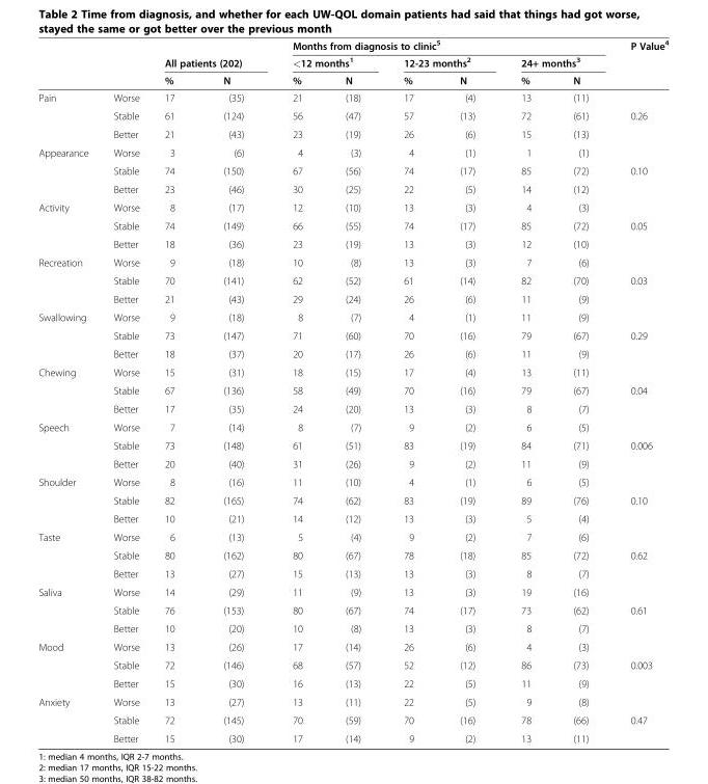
<table><thead><tr><td rowspan="3"></td><td rowspan="3"></td><td></td><td></td><td colspan="6">Months from diagnosis to clinic<sup>5</sup></td><td rowspan="3">P Value<sup>4</sup></td></tr><tr><td colspan="2">All patients (202)</td><td colspan="2">&lt;12 months<sup>1</sup></td><td colspan="2">12-23 months<sup>2</sup></td><td colspan="2">24+ months<sup>3</sup></td></tr><tr><td>%</td><td>N</td><td>%</td><td>N</td><td>%</td><td>N</td><td>%</td><td>N</td></tr></thead><tbody><tr><td rowspan="3">Pain</td><td>Worse</td><td>17</td><td>(35)</td><td>21</td><td>(18)</td><td>17</td><td>(4)</td><td>13</td><td>(11)</td><td></td></tr><tr><td>Stable</td><td>61</td><td>(124)</td><td>56</td><td>(47)</td><td>57</td><td>(13)</td><td>72</td><td>(61)</td><td>0.26</td></tr><tr><td>Better</td><td>21</td><td>(43)</td><td>23</td><td>(19)</td><td>26</td><td>(6)</td><td>15</td><td>(13)</td><td></td></tr><tr><td rowspan="3">Appearance</td><td>Worse</td><td>3</td><td>(6)</td><td>4</td><td>(3)</td><td>4</td><td>(1)</td><td>1</td><td>(1)</td><td></td></tr><tr><td>Stable</td><td>74</td><td>(150)</td><td>67</td><td>(56)</td><td>74</td><td>(17)</td><td>85</td><td>(72)</td><td>0.10</td></tr><tr><td>Better</td><td>23</td><td>(46)</td><td>30</td><td>(25)</td><td>22</td><td>(5)</td><td>14</td><td>(12)</td><td></td></tr><tr><td rowspan="3">Activity</td><td>Worse</td><td>8</td><td>(17)</td><td>12</td><td>(10)</td><td>13</td><td>(3)</td><td>4</td><td>(3)</td><td></td></tr><tr><td>Stable</td><td>74</td><td>(149)</td><td>66</td><td>(55)</td><td>74</td><td>(17)</td><td>85</td><td>(72)</td><td>0.05</td></tr><tr><td>Better</td><td>18</td><td>(36)</td><td>23</td><td>(19)</td><td>13</td><td>(3)</td><td>12</td><td>(10)</td><td></td></tr><tr><td rowspan="3">Recreation</td><td>Worse</td><td>9</td><td>(18)</td><td>10</td><td>(8)</td><td>13</td><td>(3)</td><td>7</td><td>(6)</td><td></td></tr><tr><td>Stable</td><td>70</td><td>(141)</td><td>62</td><td>(52)</td><td>61</td><td>(14)</td><td>82</td><td>(70)</td><td>0.03</td></tr><tr><td>Better</td><td>21</td><td>(43)</td><td>29</td><td>(24)</td><td>26</td><td>(6)</td><td>11</td><td>(9)</td><td></td></tr><tr><td rowspan="3">Swallowing</td><td>Worse</td><td>9</td><td>(18)</td><td>8</td><td>(7)</td><td>4</td><td>(1)</td><td>11</td><td>(9)</td><td></td></tr><tr><td>Stable</td><td>73</td><td>(147)</td><td>71</td><td>(60)</td><td>70</td><td>(16)</td><td>79</td><td>(67)</td><td>0.29</td></tr><tr><td>Better</td><td>18</td><td>(37)</td><td>20</td><td>(17)</td><td>26</td><td>(6)</td><td>11</td><td>(9)</td><td></td></tr><tr><td rowspan="3">Chewing</td><td>Worse</td><td>15</td><td>(31)</td><td>18</td><td>(15)</td><td>17</td><td>(4)</td><td>13</td><td>(11)</td><td></td></tr><tr><td>Stable</td><td>67</td><td>(136)</td><td>58</td><td>(49)</td><td>70</td><td>(16)</td><td>79</td><td>(67)</td><td>0.04</td></tr><tr><td>Better</td><td>17</td><td>(35)</td><td>24</td><td>(20)</td><td>13</td><td>(3)</td><td>8</td><td>(7)</td><td></td></tr><tr><td rowspan="3">Speech</td><td>Worse</td><td>7</td><td>(14)</td><td>8</td><td>(7)</td><td>9</td><td>(2)</td><td>6</td><td>(5)</td><td></td></tr><tr><td>Stable</td><td>73</td><td>(148)</td><td>61</td><td>(51)</td><td>83</td><td>(19)</td><td>84</td><td>(71)</td><td>0.006</td></tr><tr><td>Better</td><td>20</td><td>(40)</td><td>31</td><td>(26)</td><td>9</td><td>(2)</td><td>11</td><td>(9)</td><td></td></tr><tr><td rowspan="3">Shoulder</td><td>Worse</td><td>8</td><td>(16)</td><td>11</td><td>(10)</td><td>4</td><td>(1)</td><td>6</td><td>(5)</td><td></td></tr><tr><td>Stable</td><td>82</td><td>(165)</td><td>74</td><td>(62)</td><td>83</td><td>(19)</td><td>89</td><td>(76)</td><td>0.10</td></tr><tr><td>Better</td><td>10</td><td>(21)</td><td>14</td><td>(12)</td><td>13</td><td>(3)</td><td>5</td><td>(4)</td><td></td></tr><tr><td rowspan="3">Taste</td><td>Worse</td><td>6</td><td>(13)</td><td>5</td><td>(4)</td><td>9</td><td>(2)</td><td>7</td><td>(6)</td><td></td></tr><tr><td>Stable</td><td>80</td><td>(162)</td><td>80</td><td>(67)</td><td>78</td><td>(18)</td><td>85</td><td>(72)</td><td>0.62</td></tr><tr><td>Better</td><td>13</td><td>(27)</td><td>15</td><td>(13)</td><td>13</td><td>(3)</td><td>8</td><td>(7)</td><td></td></tr><tr><td rowspan="3">Saliva</td><td>Worse</td><td>14</td><td>(29)</td><td>11</td><td>(9)</td><td>13</td><td>(3)</td><td>19</td><td>(16)</td><td></td></tr><tr><td>Stable</td><td>76</td><td>(153)</td><td>80</td><td>(67)</td><td>74</td><td>(17)</td><td>73</td><td>(62)</td><td>0.61</td></tr><tr><td>Better</td><td>10</td><td>(20)</td><td>10</td><td>(8)</td><td>13</td><td>(3)</td><td>8</td><td>(7)</td><td></td></tr><tr><td rowspan="3">Mood</td><td>Worse</td><td>13</td><td>(26)</td><td>17</td><td>(14)</td><td>26</td><td>(6)</td><td>4</td><td>(3)</td><td></td></tr><tr><td>Stable</td><td>72</td><td>(146)</td><td>68</td><td>(57)</td><td>52</td><td>(12)</td><td>86</td><td>(73)</td><td>0.003</td></tr><tr><td>Better</td><td>15</td><td>(30)</td><td>16</td><td>(13)</td><td>22</td><td>(5)</td><td>11</td><td>(9)</td><td></td></tr><tr><td rowspan="3">Anxiety</td><td>Worse</td><td>13</td><td>(27)</td><td>13</td><td>(11)</td><td>22</td><td>(5)</td><td>9</td><td>(8)</td><td></td></tr><tr><td>Stable</td><td>72</td><td>(145)</td><td>70</td><td>(59)</td><td>70</td><td>(16)</td><td>78</td><td>(66)</td><td>0.47</td></tr><tr><td>Better</td><td>15</td><td>(30)</td><td>17</td><td>(14)</td><td>9</td><td>(2)</td><td>13</td><td>(11)</td><td></td></tr></tbody></table>